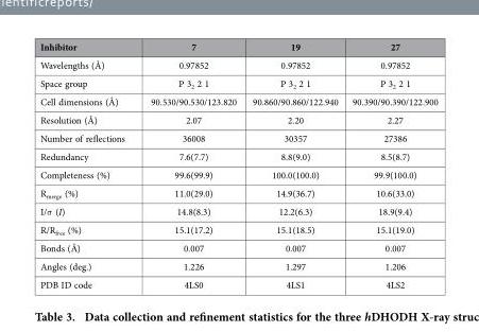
<table><thead><tr><td>Inhibitor</td><td>7</td><td>19</td><td>27</td></tr></thead><tbody><tr><td>Wavelengths (Å)</td><td>0.97852</td><td>0.97852</td><td>0.97852</td></tr><tr><td>Space group</td><td>P 3<sub>2</sub> 2 1</td><td>P 3<sub>2</sub> 2 1</td><td>P 3<sub>2</sub> 2 1</td></tr><tr><td>Cell dimensions (Å)</td><td>90.530/90.530/123.820</td><td>90.860/90.860/122.940</td><td>90.390/90.390/122.900</td></tr><tr><td>Resolution (Å)</td><td>2.07</td><td>2.20</td><td>2.27</td></tr><tr><td>Number of reflections</td><td>36008</td><td>30357</td><td>27386</td></tr><tr><td>Redundancy</td><td>7.6(7.7)</td><td>8.8(9.0)</td><td>8.5(8.7)</td></tr><tr><td>Completeness (%)</td><td>99.6(99.9)</td><td>100.0(100.0)</td><td>99.9(100.0)</td></tr><tr><td>R<sub>merge</sub> (%)</td><td>11.0(29.0)</td><td>14.9(36.7)</td><td>10.6(33.0)</td></tr><tr><td>I/σ (I)</td><td>14.8(8.3)</td><td>12.2(6.3)</td><td>18.9(9.4)</td></tr><tr><td>R/R<sub>free</sub> (%)</td><td>15.1(17.2)</td><td>15.1(18.5)</td><td>15.1(19.0)</td></tr><tr><td>Bonds (Å)</td><td>0.007</td><td>0.007</td><td>0.007</td></tr><tr><td>Angles (deg.)</td><td>1.226</td><td>1.297</td><td>1.206</td></tr><tr><td>PDB ID code</td><td>4LS0</td><td>4LS1</td><td>4LS2</td></tr></tbody></table>